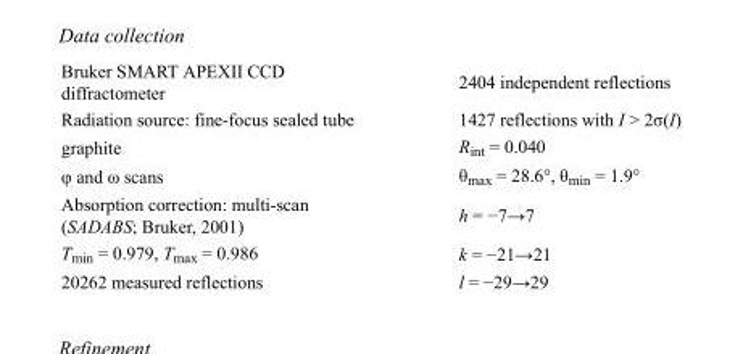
<table><tbody><tr><td>Bruker SMART APEXII CCD diffractometer</td><td>2404 independent reflections</td></tr><tr><td>Radiation source: fine-focus sealed tube</td><td>1427 reflections with I &gt; 2σ(I)</td></tr><tr><td>graphite</td><td>R<sub>int</sub> = 0.040</td></tr><tr><td>φ and ω scans</td><td>θ<sub>max</sub> = 28.6°, θ<sub>min</sub> = 1.9°</td></tr><tr><td>Absorption correction: multi-scan (SADABS; Bruker, 2001)</td><td>h = −7→7</td></tr><tr><td>T<sub>min</sub> = 0.979, T<sub>max</sub> = 0.986</td><td>k = −21→21</td></tr><tr><td>20262 measured reflections</td><td>l = −29→29</td></tr></tbody></table>